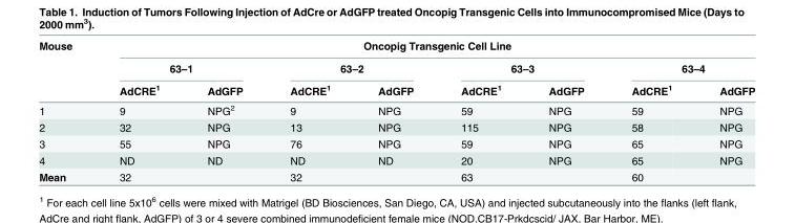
<table><thead><tr><td rowspan="3">Mouse</td><td colspan="8">Oncopig Transgenic Cell Line</td></tr><tr><td colspan="2">63–1</td><td colspan="2">63–2</td><td colspan="2">63–3</td><td colspan="2">63–4</td></tr><tr><td>AdCRE<sup>1</sup></td><td>AdGFP</td><td>AdCRE<sup>1</sup></td><td>AdGFP</td><td>AdCRE<sup>1</sup></td><td>AdGFP</td><td>AdCRE<sup>1</sup></td><td>AdGFP</td></tr></thead><tbody><tr><td>1</td><td>9</td><td>NPG<sup>2</sup></td><td>9</td><td>NPG</td><td>59</td><td>NPG</td><td>59</td><td>NPG</td></tr><tr><td>2</td><td>32</td><td>NPG</td><td>13</td><td>NPG</td><td>115</td><td>NPG</td><td>58</td><td>NPG</td></tr><tr><td>3</td><td>55</td><td>NPG</td><td>76</td><td>NPG</td><td>59</td><td>NPG</td><td>65</td><td>NPG</td></tr><tr><td>4</td><td>ND</td><td>ND</td><td>ND</td><td>ND</td><td>20</td><td>NPG</td><td>65</td><td>NPG</td></tr><tr><td>Mean</td><td>32</td><td></td><td>32</td><td></td><td>63</td><td></td><td>60</td><td></td></tr></tbody></table>